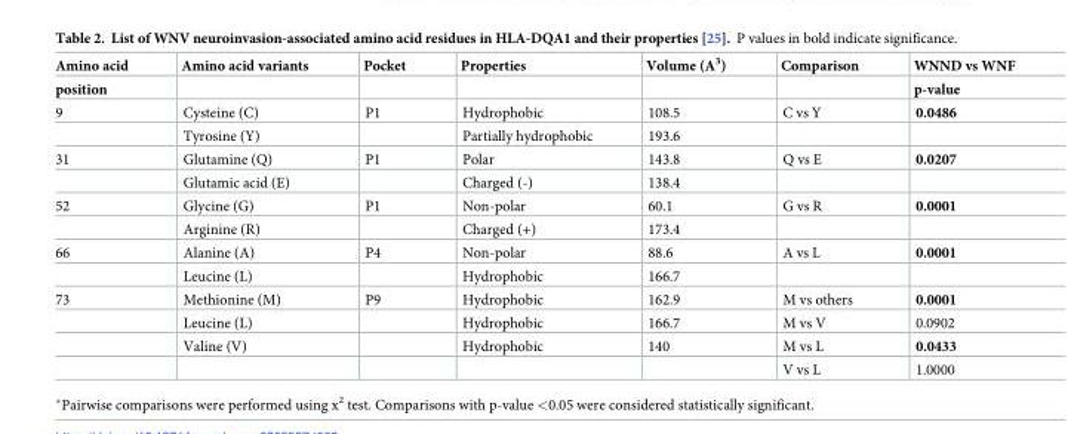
<table><thead><tr><td rowspan="2">Amino acid position</td><td rowspan="2">Amino acid variants</td><td rowspan="2">Pocket</td><td rowspan="2">Properties</td><td rowspan="2">Volume (Α<sup>3</sup>)</td><td rowspan="2">Comparison</td><td rowspan="2">WNND vs WNF p-value</td></tr><tr></tr></thead><tbody><tr><td rowspan="2">9</td><td>Cysteine (C)</td><td>P1</td><td>Hydrophobic</td><td>108.5</td><td>C vs Y</td><td>0.0486</td></tr><tr><td>Tyrosine (Y)</td><td></td><td>Partially hydrophobic</td><td>193.6</td><td></td><td></td></tr><tr><td rowspan="2">31</td><td>Glutamine (Q)</td><td>P1</td><td>Polar</td><td>143.8</td><td>Q vs E</td><td>0.0207</td></tr><tr><td>Glutamic acid (E)</td><td></td><td>Charged (-)</td><td>138.4</td><td></td><td></td></tr><tr><td rowspan="2">52</td><td>Glycine (G)</td><td>P1</td><td>Non-polar</td><td>60.1</td><td>G vs R</td><td>0.0001</td></tr><tr><td>Arginine (R)</td><td></td><td>Charged (+)</td><td>173.4</td><td></td><td></td></tr><tr><td rowspan="2">66</td><td>Alanine (A)</td><td>P4</td><td>Non-polar</td><td>88.6</td><td>A vs L</td><td>0.0001</td></tr><tr><td>Leucine (L)</td><td></td><td>Hydrophobic</td><td>166.7</td><td></td><td></td></tr><tr><td rowspan="4">73</td><td>Methionine (M)</td><td>P9</td><td>Hydrophobic</td><td>162.9</td><td>M vs others</td><td>0.0001</td></tr><tr><td>Leucine (L)</td><td></td><td>Hydrophobic</td><td>166.7</td><td>M vs V</td><td>0.0902</td></tr><tr><td>Valine (V)</td><td></td><td>Hydrophobic</td><td>140</td><td>M vs L</td><td>0.0433</td></tr><tr><td></td><td></td><td></td><td></td><td>V vs L</td><td>1.0000</td></tr></tbody></table>